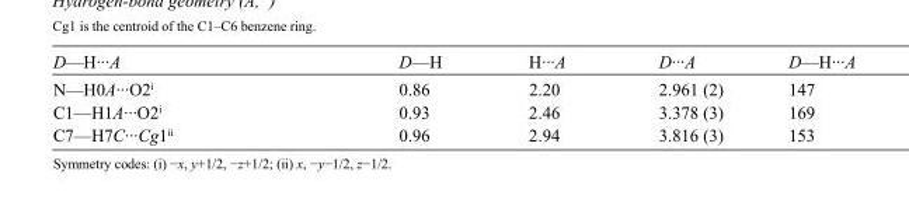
<table><tbody><tr><td>D—H···A</td><td>D—H</td><td>H···A</td><td>D···A</td><td>D—H···A</td></tr><tr><td>N—H0A···O2<sup>i</sup></td><td>0.86</td><td>2.20</td><td>2.961 (2)</td><td>147</td></tr><tr><td>C1—H1A···O2<sup>i</sup></td><td>0.93</td><td>2.46</td><td>3.378 (3)</td><td>169</td></tr><tr><td>C7—H7C···Cg1<sup>ii</sup></td><td>0.96</td><td>2.94</td><td>3.816 (3)</td><td>153</td></tr></tbody></table>